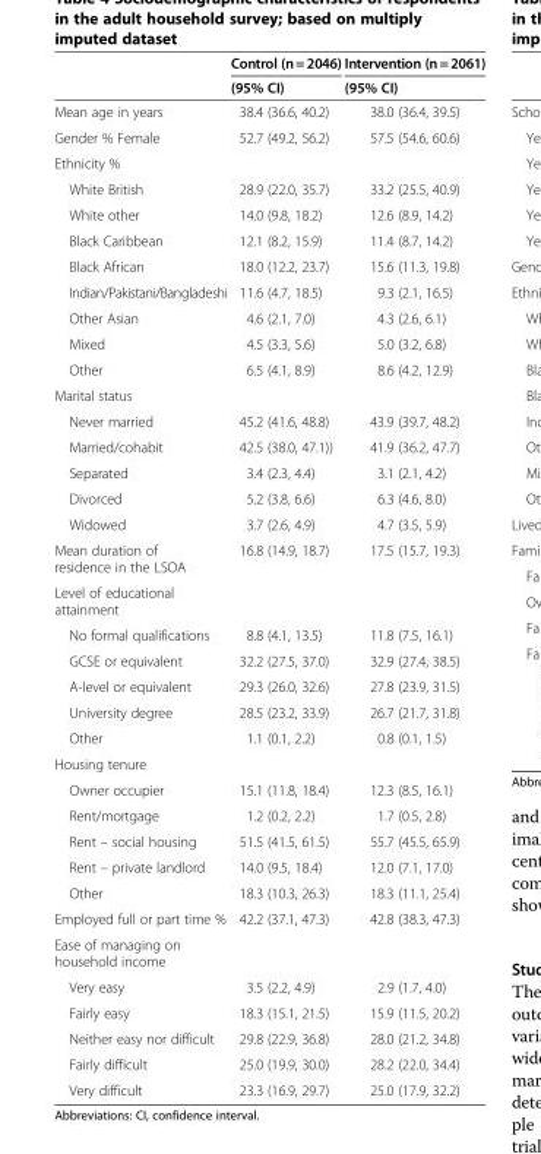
<table><thead><tr><td rowspan="2"></td><td rowspan="2">Control (n= 2046) (95% CI)</td><td rowspan="2">Intervention (n = 2061) (95% CI)</td></tr><tr></tr></thead><tbody><tr><td>Mean age in years</td><td>38.4 (36.6, 40.2)</td><td>38.0 (36.4, 39.5)</td></tr><tr><td>Gender % Female</td><td>52.7 (49.2, 56.2)</td><td>57.5 (54.6, 60.6)</td></tr><tr><td colspan="3">Ethnicity %</td></tr><tr><td>White British</td><td>28.9 (22.0, 35.7)</td><td>33.2 (25.5, 40.9)</td></tr><tr><td>White other</td><td>14.0 (9.8, 18.2)</td><td>12.6 (8.9, 14.2)</td></tr><tr><td>Black Caribbean</td><td>12.1 (8.2, 15.9)</td><td>11.4 (8.7, 14.2)</td></tr><tr><td>Black African</td><td>18.0 (12.2, 23.7)</td><td>15.6 (11.3, 19.8)</td></tr><tr><td>Indian/Pakistani/Bangladeshi</td><td>11.6 (4.7, 18.5)</td><td>9.3 (2.1, 16.5)</td></tr><tr><td>Other Asian</td><td>4.6 (2.1, 7.0)</td><td>4.3 (2.6, 6.1)</td></tr><tr><td>Mixed</td><td>4.5 (3.3, 5.6)</td><td>5.0 (3.2, 6.8)</td></tr><tr><td>Other</td><td>6.5 (4.1, 8.9)</td><td>8.6 (4.2, 12.9)</td></tr><tr><td colspan="3">Marital status</td></tr><tr><td>Never married</td><td>45.2 (41.6, 48.8)</td><td>43.9 (39.7, 48.2)</td></tr><tr><td>Married/cohabit</td><td>42.5 (38.0, 47.1))</td><td>41.9 (36.2, 47.7)</td></tr><tr><td>Separated</td><td>3.4 (2.3, 4.4)</td><td>3.1 (2.1, 4.2)</td></tr><tr><td>Divorced</td><td>5.2 (3.8, 6.6)</td><td>6.3 (4.6, 8.0)</td></tr><tr><td>Widowed</td><td>3.7 (2.6, 4.9)</td><td>4.7 (3.5, 5.9)</td></tr><tr><td>Mean duration of residence in the LSOA</td><td>16.8 (14.9, 18.7)</td><td>17.5 (15.7, 19.3)</td></tr><tr><td colspan="3">Level of educational attainment</td></tr><tr><td>No formal qualifications</td><td>8.8 (4.1, 13.5)</td><td>11.8 (7.5, 16.1)</td></tr><tr><td>GCSE or equivalent</td><td>32.2 (27.5, 37.0)</td><td>32.9 (27.4, 38.5)</td></tr><tr><td>A-level or equivalent</td><td>29.3 (26.0, 32.6)</td><td>27.8 (23.9, 31.5)</td></tr><tr><td>University degree</td><td>28.5 (23.2, 33.9)</td><td>26.7 (21.7, 31.8)</td></tr><tr><td>Other</td><td>1.1 (0.1, 2.2)</td><td>0.8 (0.1, 1.5)</td></tr><tr><td colspan="3">Housing tenure</td></tr><tr><td>Owner occupier</td><td>15.1 (11.8, 18.4)</td><td>12.3 (8.5, 16.1)</td></tr><tr><td>Rent/mortgage</td><td>1.2 (0.2, 2.2)</td><td>1.7 (0.5, 2.8)</td></tr><tr><td>Rent – social housing</td><td>51.5 (41.5, 61.5)</td><td>55.7 (45.5, 65.9)</td></tr><tr><td>Rent – private landlord</td><td>14.0 (9.5, 18.4)</td><td>12.0 (7.1, 17.0)</td></tr><tr><td>Other</td><td>18.3 (10.3, 26.3)</td><td>18.3 (11.1, 25.4)</td></tr><tr><td>Employed full or part time %</td><td>42.2 (37.1, 47.3)</td><td>42.8 (38.3, 47.3)</td></tr><tr><td colspan="3">Ease of managing on household income</td></tr><tr><td>Very easy</td><td>3.5 (2.2, 4.9)</td><td>2.9 (1.7, 4.0)</td></tr><tr><td>Fairly easy</td><td>18.3 (15.1, 21.5)</td><td>15.9 (11.5, 20.2)</td></tr><tr><td>Neither easy nor difficult</td><td>29.8 (22.9, 36.8)</td><td>28.0 (21.2, 34.8)</td></tr><tr><td>Fairly difficult</td><td>25.0 (19.9, 30.0)</td><td>28.2 (22.0, 34.4)</td></tr><tr><td>Very difficult</td><td>23.3 (16.9, 29.7)</td><td>25.0 (17.9, 32.2)</td></tr></tbody></table>